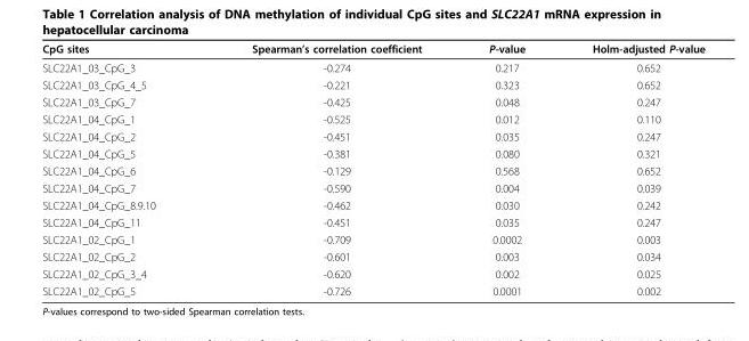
<table><thead><tr><td>CpG sites</td><td>Spearman’s correlation coefficient</td><td>P-value</td><td>Holm-adjusted P-value</td></tr></thead><tbody><tr><td>SLC22A1_03_CpG_3</td><td>-0.274</td><td>0.217</td><td>0.652</td></tr><tr><td>SLC22A1_03_CpG_4_5</td><td>-0.221</td><td>0.323</td><td>0.652</td></tr><tr><td>SLC22A1_03_CpG_7</td><td>-0.425</td><td>0.048</td><td>0.247</td></tr><tr><td>SLC22A1_04_CpG_1</td><td>-0.525</td><td>0.012</td><td>0.110</td></tr><tr><td>SLC22A1_04_CpG_2</td><td>-0.451</td><td>0.035</td><td>0.247</td></tr><tr><td>SLC22A1_04_CpG_5</td><td>-0.381</td><td>0.080</td><td>0.321</td></tr><tr><td>SLC22A1_04_CpG_6</td><td>-0.129</td><td>0.568</td><td>0.652</td></tr><tr><td>SLC22A1_04_CpG_7</td><td>-0.590</td><td>0.004</td><td>0.039</td></tr><tr><td>SLC22A1_04_CpG_8.9.10</td><td>-0.462</td><td>0.030</td><td>0.242</td></tr><tr><td>SLC22A1_04_CpG_11</td><td>-0.451</td><td>0.035</td><td>0.247</td></tr><tr><td>SLC22A1_02_CpG_1</td><td>-0.709</td><td>0.0002</td><td>0.003</td></tr><tr><td>SLC22A1_02_CpG_2</td><td>-0.601</td><td>0.003</td><td>0.034</td></tr><tr><td>SLC22A1_02_CpG_3_4</td><td>-0.620</td><td>0.002</td><td>0.025</td></tr><tr><td>SLC22A1_02_CpG_5</td><td>-0.726</td><td>0.0001</td><td>0.002</td></tr></tbody></table>